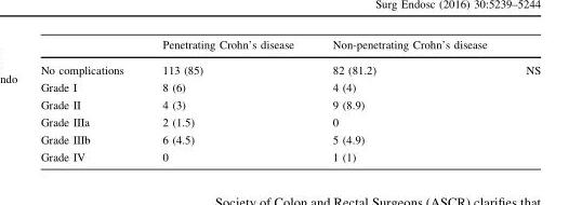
<table><thead><tr><td></td><td>Penetrating Crohn’s disease</td><td>Non-penetrating Crohn’s disease</td><td></td></tr></thead><tbody><tr><td>No complications</td><td>113 (85)</td><td>82 (81.2)</td><td>NS</td></tr><tr><td>Grade I</td><td>8 (6)</td><td>4 (4)</td><td></td></tr><tr><td>Grade II</td><td>4 (3)</td><td>9 (8.9)</td><td></td></tr><tr><td>Grade IIIa</td><td>2 (1.5)</td><td>0</td><td></td></tr><tr><td>Grade IIIb</td><td>6 (4.5)</td><td>5 (4.9)</td><td></td></tr><tr><td>Grade IV</td><td>0</td><td>1 (1)</td><td></td></tr></tbody></table>